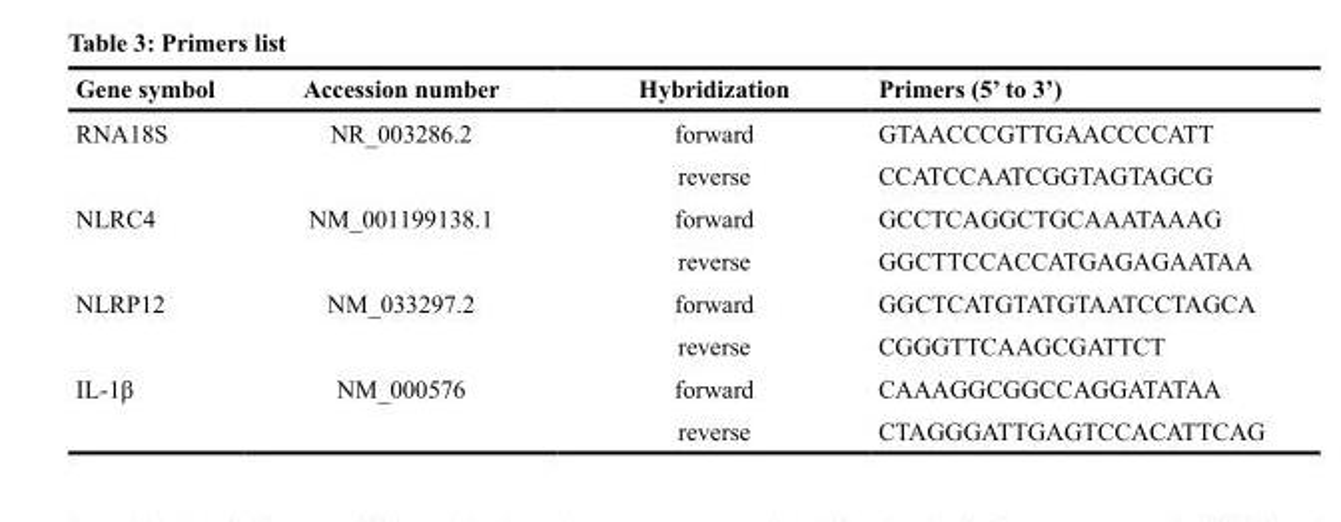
<table><thead><tr><td>Gene symbol</td><td>Accession number</td><td>Hybridization</td><td>Primers (5’ to 3’)</td></tr></thead><tbody><tr><td rowspan="2">RNA18S</td><td>NR_003286.2</td><td>forward</td><td>GTAACCCGTTGAACCCCATT</td></tr><tr><td></td><td>reverse</td><td>CCATCCAATCGGTAGTAGCG</td></tr><tr><td rowspan="2">NLRC4</td><td>NM_001199138.1</td><td>forward</td><td>GCCTCAGGCTGCAAATAAAG</td></tr><tr><td></td><td>reverse</td><td>GGCTTCCACCATGAGAGAATAA</td></tr><tr><td rowspan="2">NLRP12</td><td>NM_033297.2</td><td>forward</td><td>GGCTCATGTATGTAATCCTAGCA</td></tr><tr><td></td><td>reverse</td><td>CGGGTTCAAGCGATTCT</td></tr><tr><td rowspan="2">IL-1β</td><td>NM_000576</td><td>forward</td><td>CAAAGGCGGCCAGGATATAA</td></tr><tr><td></td><td>reverse</td><td>CTAGGGATTGAGTCCACATTCAG</td></tr></tbody></table>